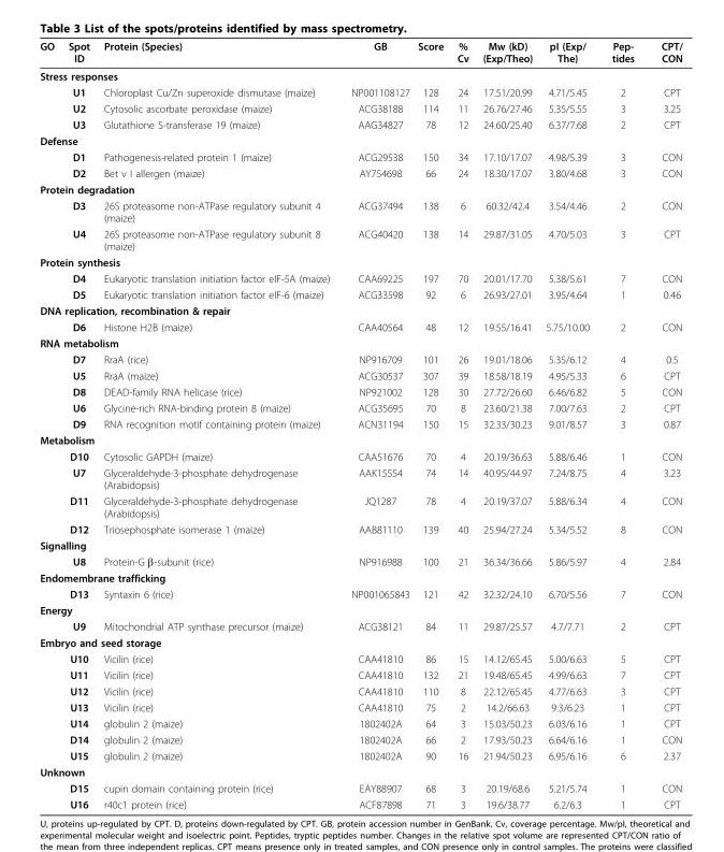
<table><thead><tr><td>GO</td><td>Spot ID</td><td>Protein (Species)</td><td>GB</td><td>Score</td><td>% Cv</td><td>Mw (kD) (Exp/Theo)</td><td>pI (Exp/ The)</td><td>Pep- tides</td><td>CPT/ CON</td></tr></thead><tbody><tr><td colspan="10">Stress responses</td></tr><tr><td></td><td>U1</td><td>Chloroplast Cu/Zn superoxide dismutase (maize)</td><td>NP001108127</td><td>128</td><td>24</td><td>17.51/20.99</td><td>4.71/5.45</td><td>2</td><td>CPT</td></tr><tr><td></td><td>U2</td><td>Cytosolic ascorbate peroxidase (maize)</td><td>ACG38188</td><td>114</td><td>11</td><td>26.76/27.46</td><td>5.35/5.55</td><td>3</td><td>3.25</td></tr><tr><td></td><td>U3</td><td>Glutathione S-transferase 19 (maize)</td><td>AAG34827</td><td>78</td><td>12</td><td>24.60/25.40</td><td>6.37/7.68</td><td>2</td><td>CPT</td></tr><tr><td colspan="10">Defense</td></tr><tr><td></td><td>D1</td><td>Pathogenesis-related protein 1 (maize)</td><td>ACG29538</td><td>150</td><td>34</td><td>17.10/17.07</td><td>4.98/5.39</td><td>3</td><td>CON</td></tr><tr><td></td><td>D2</td><td>Bet v I allergen (maize)</td><td>AY754698</td><td>66</td><td>24</td><td>18.30/17.07</td><td>3.80/4.68</td><td>3</td><td>CON</td></tr><tr><td colspan="10">Protein degradation</td></tr><tr><td></td><td>D3</td><td>26S proteasome non-ATPase regulatory subunit 4 (maize)</td><td>ACG37494</td><td>138</td><td>6</td><td>60.32/42.4</td><td>3.54/4.46</td><td>2</td><td>CON</td></tr><tr><td></td><td>U4</td><td>26S proteasome non-ATPase regulatory subunit 8 (maize)</td><td>ACG40420</td><td>138</td><td>14</td><td>29.87/31.05</td><td>4.70/5.03</td><td>3</td><td>CPT</td></tr><tr><td colspan="10">Protein synthesis</td></tr><tr><td></td><td>D4</td><td>Eukaryotic translation initiation factor eIF-5A (maize)</td><td>CAA69225</td><td>197</td><td>70</td><td>20.01/17.70</td><td>5.38/5.61</td><td>7</td><td>CON</td></tr><tr><td></td><td>D5</td><td>Eukaryotic translation initiation factor eIF-6 (maize)</td><td>ACG33598</td><td>92</td><td>6</td><td>26.93/27.01</td><td>3.95/4.64</td><td>1</td><td>0.46</td></tr><tr><td colspan="10">DNA replication, recombination &amp; repair</td></tr><tr><td></td><td>D6</td><td>Histone H2B (maize)</td><td>CAA40564</td><td>48</td><td>12</td><td>19.55/16.41</td><td>5.75/10.00</td><td>2</td><td>CON</td></tr><tr><td colspan="10">RNA metabolism</td></tr><tr><td></td><td>D7</td><td>RraA (rice)</td><td>NP916709</td><td>101</td><td>26</td><td>19.01/18.06</td><td>5.35/6.12</td><td>4</td><td>0.5</td></tr><tr><td></td><td>U5</td><td>RraA (maize)</td><td>ACG30537</td><td>307</td><td>39</td><td>18.58/18.19</td><td>4.95/5.33</td><td>6</td><td>CPT</td></tr><tr><td></td><td>D8</td><td>DEAD-family RNA helicase (rice)</td><td>NP921002</td><td>128</td><td>30</td><td>27.72/26.60</td><td>6.46/6.82</td><td>5</td><td>CON</td></tr><tr><td></td><td>U6</td><td>Glycine-rich RNA-binding protein 8 (maize)</td><td>ACG35695</td><td>70</td><td>8</td><td>23.60/21.38</td><td>7.00/7.63</td><td>2</td><td>CPT</td></tr><tr><td></td><td>D9</td><td>RNA recognition motif containing protein (maize)</td><td>ACN31194</td><td>150</td><td>15</td><td>32.33/30.23</td><td>9.01/8.57</td><td>3</td><td>0.87</td></tr><tr><td colspan="10">Metabolism</td></tr><tr><td></td><td>D10</td><td>Cytosolic GAPDH (maize)</td><td>CAA51676</td><td>70</td><td>4</td><td>20.19/36.63</td><td>5.88/6.46</td><td>1</td><td>CON</td></tr><tr><td></td><td>U7</td><td>Glyceraldehyde-3-phosphate dehydrogenase (Arabidopsis)</td><td>AAK15554</td><td>74</td><td>14</td><td>40.95/44.97</td><td>7.24/8.75</td><td>4</td><td>3.23</td></tr><tr><td></td><td>D11</td><td>Glyceraldehyde-3-phosphate dehydrogenase (Arabidopsis)</td><td>JQ1287</td><td>78</td><td>4</td><td>20.19/37.07</td><td>5.88/6.34</td><td>4</td><td>CON</td></tr><tr><td></td><td>D12</td><td>Triosephosphate isomerase 1 (maize)</td><td>AAB81110</td><td>139</td><td>40</td><td>25.94/27.24</td><td>5.34/5.52</td><td>8</td><td>CON</td></tr><tr><td colspan="10">Signalling</td></tr><tr><td></td><td>U8</td><td>Protein-G β-subunit (rice)</td><td>NP916988</td><td>100</td><td>21</td><td>36.34/36.66</td><td>5.86/5.97</td><td>4</td><td>2.84</td></tr><tr><td colspan="10">Endomembrane trafficking</td></tr><tr><td></td><td>D13</td><td>Syntaxin 6 (rice)</td><td>NP001065843</td><td>121</td><td>42</td><td>32.32/24.10</td><td>6.70/5.56</td><td>7</td><td>CON</td></tr><tr><td colspan="10">Energy</td></tr><tr><td></td><td>U9</td><td>Mitochondrial ATP synthase precursor (maize)</td><td>ACG38121</td><td>84</td><td>11</td><td>29.87/25.57</td><td>4.7/7.71</td><td>2</td><td>CPT</td></tr><tr><td colspan="10">Embryo and seed storage</td></tr><tr><td></td><td>U10</td><td>Vicilin (rice)</td><td>CAA41810</td><td>86</td><td>15</td><td>14.12/65.45</td><td>5.00/6.63</td><td>5</td><td>CPT</td></tr><tr><td></td><td>U11</td><td>Vicilin (rice)</td><td>CAA41810</td><td>132</td><td>21</td><td>19.48/65.45</td><td>4.99/6.63</td><td>7</td><td>CPT</td></tr><tr><td></td><td>U12</td><td>Vicilin (rice)</td><td>CAA41810</td><td>110</td><td>8</td><td>22.12/65.45</td><td>4.77/6.63</td><td>3</td><td>CPT</td></tr><tr><td></td><td>U13</td><td>Vicilin (rice)</td><td>CAA41810</td><td>75</td><td>2</td><td>14.2/66.63</td><td>9.3/6.23</td><td>1</td><td>CPT</td></tr><tr><td></td><td>U14</td><td>globulin 2 (maize)</td><td>1802402A</td><td>64</td><td>3</td><td>15.03/50.23</td><td>6.03/6.16</td><td>1</td><td>CPT</td></tr><tr><td></td><td>D14</td><td>globulin 2 (maize)</td><td>1802402A</td><td>66</td><td>2</td><td>17.93/50.23</td><td>6.64/6.16</td><td>1</td><td>CON</td></tr><tr><td></td><td>U15</td><td>globulin 2 (maize)</td><td>1802402A</td><td>90</td><td>16</td><td>21.94/50.23</td><td>6.95/6.16</td><td>6</td><td>2.37</td></tr><tr><td colspan="10">Unknown</td></tr><tr><td></td><td>D15</td><td>cupin domain containing protein (rice)</td><td>EAY88907</td><td>68</td><td>3</td><td>20.19/68.6</td><td>5.21/5.74</td><td>1</td><td>CON</td></tr><tr><td></td><td>U16</td><td>r40c1 protein (rice)</td><td>ACF87898</td><td>71</td><td>3</td><td>19.6/38.77</td><td>6.2/6.3</td><td>1</td><td>CPT</td></tr></tbody></table>